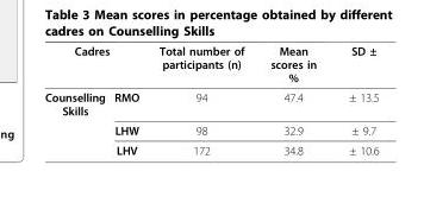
<table><thead><tr><td colspan="2">Cadres</td><td rowspan="2">Total number of participants (n) 94</td><td rowspan="2">Mean scores in % 47.4</td><td rowspan="2">SD ± ± 13.5</td></tr><tr><td>Counselling Skills</td><td>RMO</td></tr></thead><tbody><tr><td></td><td>LHW</td><td>98</td><td>32.9</td><td>± 9.7</td></tr><tr><td></td><td>LHV</td><td>172</td><td>34.8</td><td>± 10.6</td></tr></tbody></table>